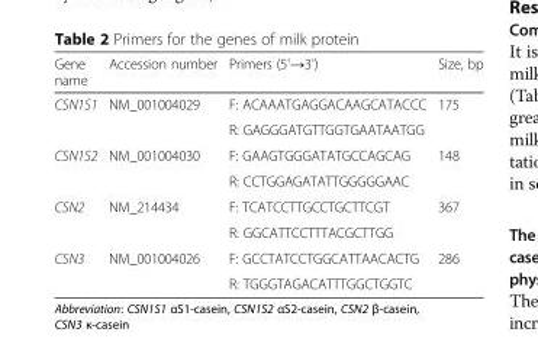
<table><thead><tr><td>Gene name</td><td>Accession number</td><td>Primers (5&#x27;→3&#x27;)</td><td>Size, bp</td></tr></thead><tbody><tr><td rowspan="2">CSN1S1</td><td rowspan="2">NM_001004029</td><td>F: ACAAATGAGGACAAGCATACCC</td><td rowspan="2">175</td></tr><tr><td>R: GAGGGATGTTGGTGAATAATGG</td></tr><tr><td rowspan="2">CSN1S2</td><td rowspan="2">NM_001004030</td><td>F: GAAGTGGGATATGCCAGCAG</td><td rowspan="2">148</td></tr><tr><td>R: CCTGGAGATATTGGGGGAAC</td></tr><tr><td rowspan="2">CSN2</td><td rowspan="2">NM_214434</td><td>F: TCATCCTTGCCTGCTTCGT</td><td rowspan="2">367</td></tr><tr><td>R: GGCATTCCTTTACGCTTGG</td></tr><tr><td rowspan="2">CSN3</td><td rowspan="2">NM_001004026</td><td>F: GCCTATCCTGGCATTAACACTG</td><td rowspan="2">286</td></tr><tr><td>R: TGGGTAGACATTTGGCTGGTC</td></tr></tbody></table>